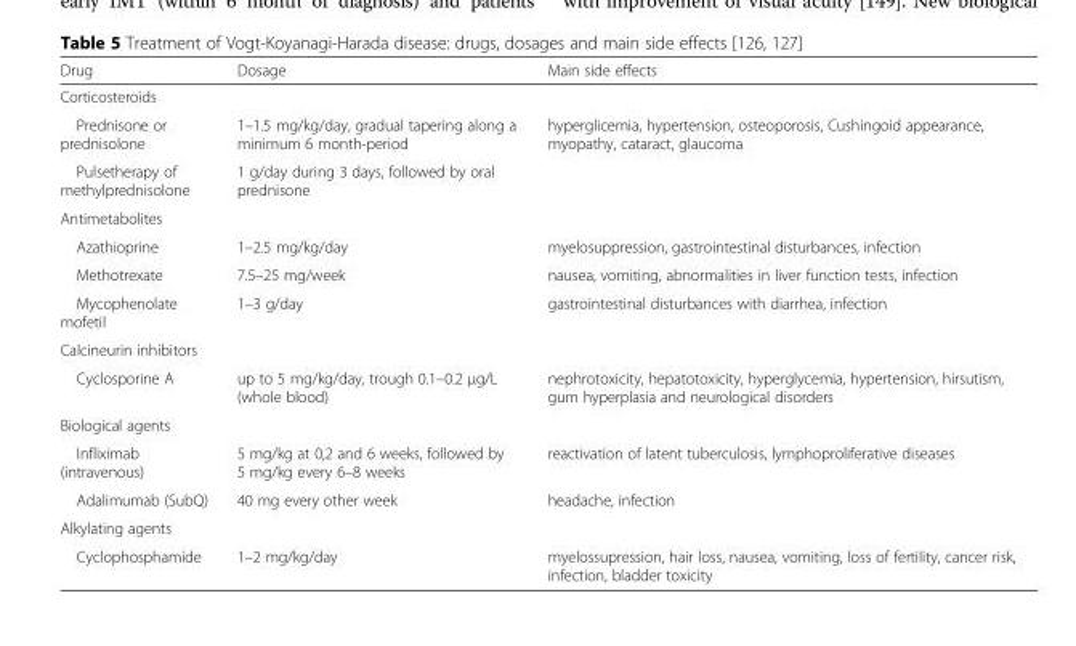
<table><thead><tr><td>Drug</td><td>Dosage</td><td>Main side effects</td></tr></thead><tbody><tr><td colspan="3">Corticosteroids</td></tr><tr><td>Prednisone or prednisolone</td><td>1–1.5 mg/kg/day, gradual tapering along a minimum 6 month-period</td><td>hyperglicemia, hypertension, osteoporosis, Cushingoid appearance, myopathy, cataract, glaucoma</td></tr><tr><td>Pulsetherapy of methylprednisolone</td><td>1 g/day during 3 days, followed by oral prednisone</td><td></td></tr><tr><td colspan="3">Antimetabolites</td></tr><tr><td>Azathioprine</td><td>1–2.5 mg/kg/day</td><td>myelosuppression, gastrointestinal disturbances, infection</td></tr><tr><td>Methotrexate</td><td>7.5–25 mg/week</td><td>nausea, vomiting, abnormalities in liver function tests, infection</td></tr><tr><td>Mycophenolate mofetil</td><td>1–3 g/day</td><td>gastrointestinal disturbances with diarrhea, infection</td></tr><tr><td colspan="3">Calcineurin inhibitors</td></tr><tr><td>Cyclosporine A</td><td>up to 5 mg/kg/day, trough 0.1–0.2 μg/L (whole blood)</td><td>nephrotoxicity, hepatotoxicity, hyperglycemia, hypertension, hirsutism, gum hyperplasia and neurological disorders</td></tr><tr><td colspan="3">Biological agents</td></tr><tr><td>Infliximab (intravenous)</td><td>5 mg/kg at 0,2 and 6 weeks, followed by 5 mg/kg every 6–8 weeks</td><td>reactivation of latent tuberculosis, lymphoproliferative diseases</td></tr><tr><td>Adalimumab (SubQ)</td><td>40 mg every other week</td><td>headache, infection</td></tr><tr><td colspan="3">Alkylating agents</td></tr><tr><td>Cyclophosphamide</td><td>1–2 mg/kg/day</td><td>myelossupression, hair loss, nausea, vomiting, loss of fertility, cancer risk, infection, bladder toxicity</td></tr></tbody></table>